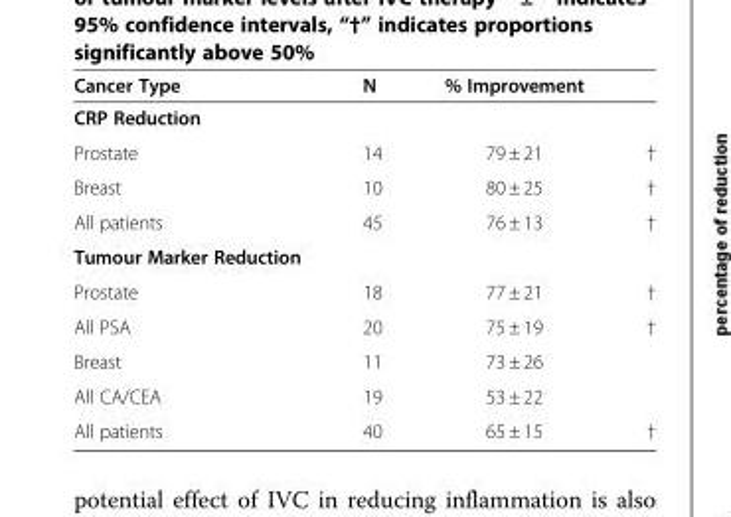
<table><thead><tr><td>Cancer Type</td><td>N</td><td>% Improvement</td><td></td></tr></thead><tbody><tr><td colspan="4">CRP Reduction</td></tr><tr><td>Prostate</td><td>14</td><td>79 ± 21</td><td>†</td></tr><tr><td>Breast</td><td>10</td><td>80 ± 25</td><td>†</td></tr><tr><td>All patients</td><td>45</td><td>76 ± 13</td><td>†</td></tr><tr><td colspan="4">Tumour Marker Reduction</td></tr><tr><td>Prostate</td><td>18</td><td>77 ± 21</td><td>†</td></tr><tr><td>All PSA</td><td>20</td><td>75 ± 19</td><td>†</td></tr><tr><td>Breast</td><td>11</td><td>73 ± 26</td><td></td></tr><tr><td>All CA/CEA</td><td>19</td><td>53 ± 22</td><td></td></tr><tr><td>All patients</td><td>40</td><td>65 ± 15</td><td>†</td></tr></tbody></table>